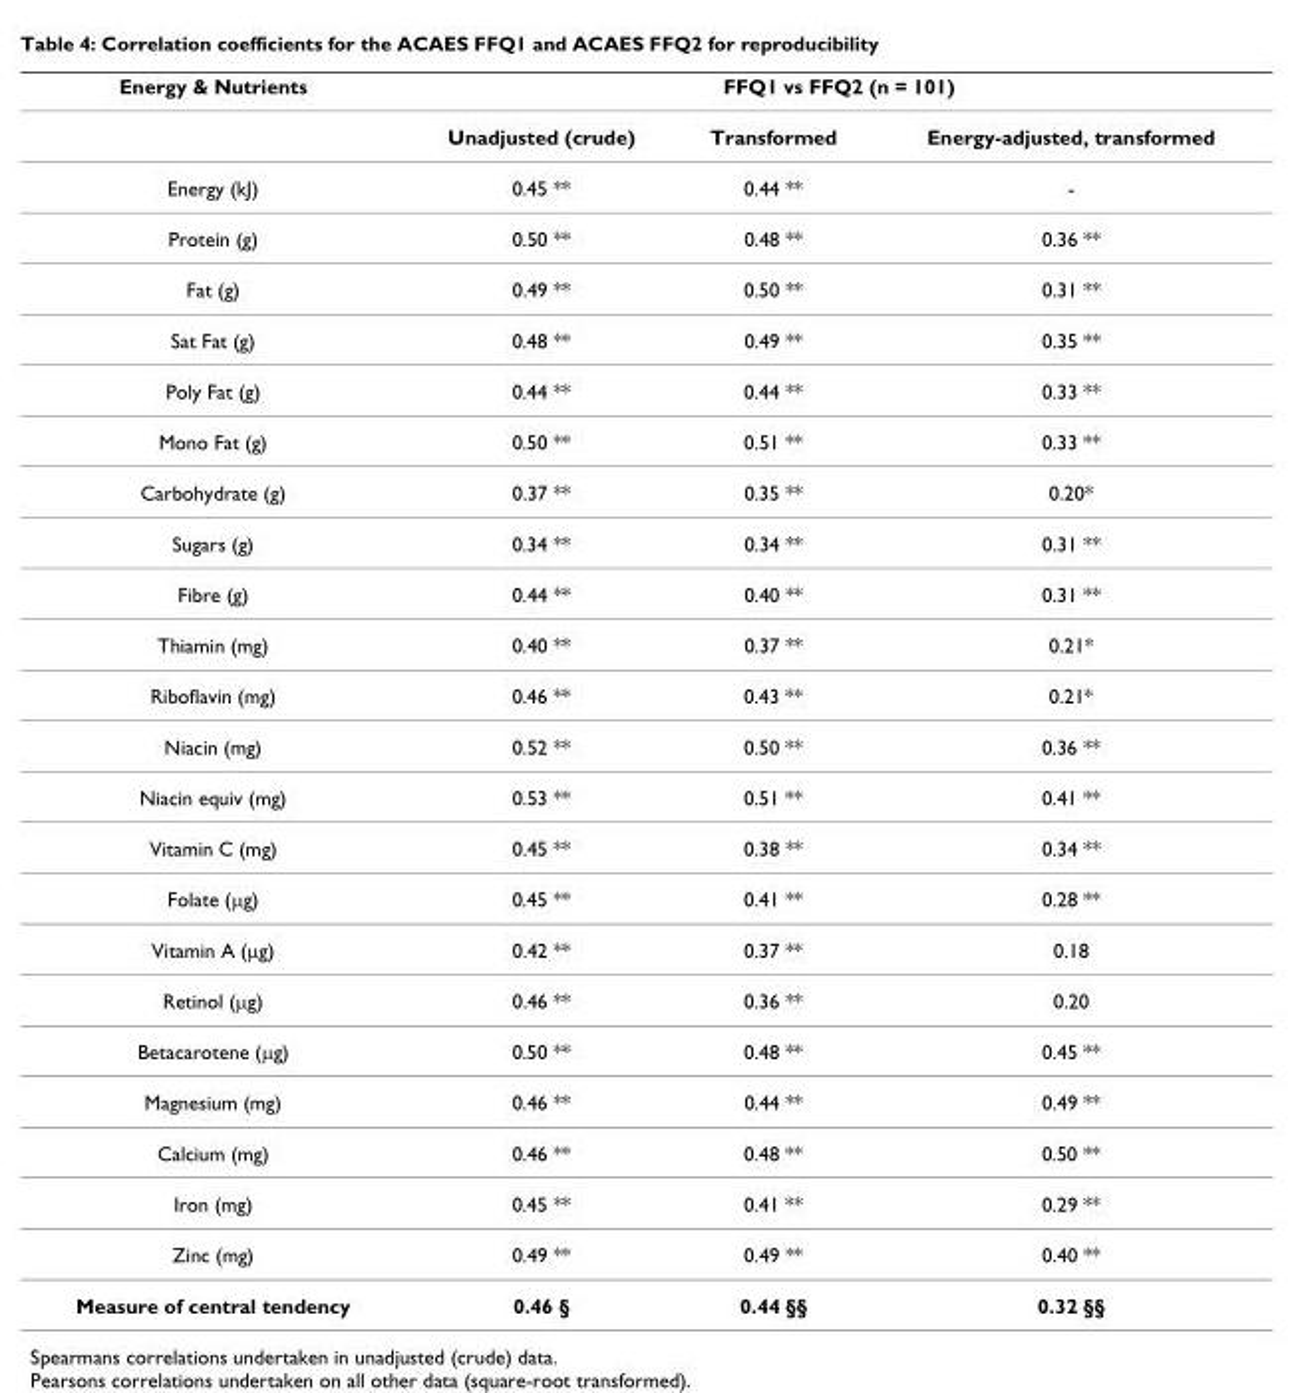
<table><thead><tr><td rowspan="2">Energy &amp; Nutrients</td><td colspan="3">FFQ1 vs FFQ2 (n = 101)</td></tr><tr><td>Unadjusted (crude)</td><td>Transformed</td><td>Energy-adjusted, transformed</td></tr></thead><tbody><tr><td>Energy (kJ)</td><td>0.45 **</td><td>0.44 **</td><td>-</td></tr><tr><td>Protein (g)</td><td>0.50 **</td><td>0.48 **</td><td>0.36 **</td></tr><tr><td>Fat (g)</td><td>0.49 **</td><td>0.50 **</td><td>0.31 **</td></tr><tr><td>Sat Fat (g)</td><td>0.48 **</td><td>0.49 **</td><td>0.35 **</td></tr><tr><td>Poly Fat (g)</td><td>0.44 **</td><td>0.44 **</td><td>0.33 **</td></tr><tr><td>Mono Fat (g)</td><td>0.50 **</td><td>0.51 **</td><td>0.33 **</td></tr><tr><td>Carbohydrate (g)</td><td>0.37 **</td><td>0.35 **</td><td>0.20*</td></tr><tr><td>Sugars (g)</td><td>0.34 **</td><td>0.34 **</td><td>0.31 **</td></tr><tr><td>Fibre (g)</td><td>0.44 **</td><td>0.40 **</td><td>0.31 **</td></tr><tr><td>Thiamin (mg)</td><td>0.40 **</td><td>0.37 **</td><td>0.21*</td></tr><tr><td>Riboflavin (mg)</td><td>0.46 **</td><td>0.43 **</td><td>0.21*</td></tr><tr><td>Niacin (mg)</td><td>0.52 **</td><td>0.50 **</td><td>0.36 **</td></tr><tr><td>Niacin equiv (mg)</td><td>0.53 **</td><td>0.51 **</td><td>0.41 **</td></tr><tr><td>Vitamin C (mg)</td><td>0.45 **</td><td>0.38 **</td><td>0.34 **</td></tr><tr><td>Folate (μg)</td><td>0.45 **</td><td>0.41 **</td><td>0.28 **</td></tr><tr><td>Vitamin A (μg)</td><td>0.42 **</td><td>0.37 **</td><td>0.18</td></tr><tr><td>Retinol (μg)</td><td>0.46 **</td><td>0.36 **</td><td>0.20</td></tr><tr><td>Betacarotene (μg)</td><td>0.50 **</td><td>0.48 **</td><td>0.45 **</td></tr><tr><td>Magnesium (mg)</td><td>0.46 **</td><td>0.44 **</td><td>0.49 **</td></tr><tr><td>Calcium (mg)</td><td>0.46 **</td><td>0.48 **</td><td>0.50 **</td></tr><tr><td>Iron (mg)</td><td>0.45 **</td><td>0.41 **</td><td>0.29 **</td></tr><tr><td>Zinc (mg)</td><td>0.49 **</td><td>0.49 **</td><td>0.40 **</td></tr><tr><td>Measure of central tendency</td><td>0.46 §</td><td>0.44 §§</td><td>0.32 §§</td></tr></tbody></table>